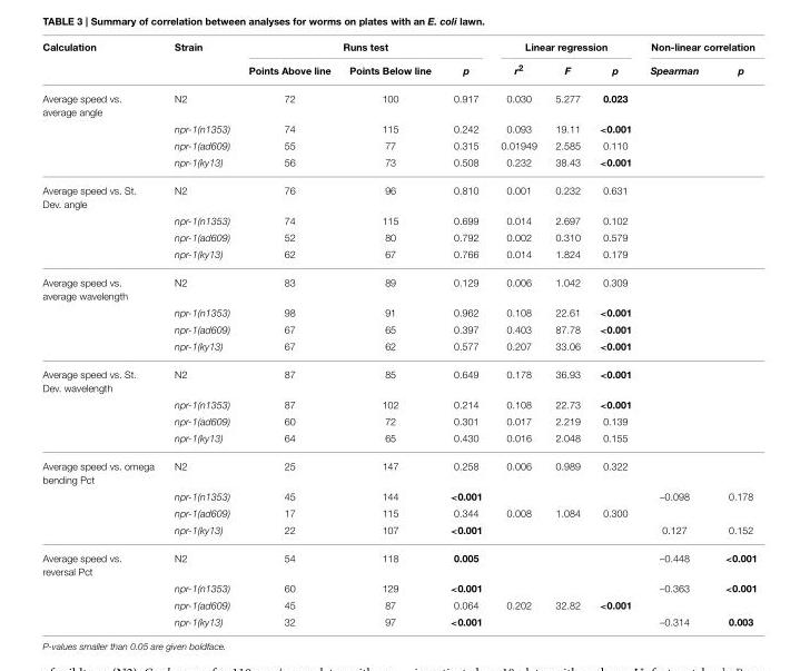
<table><thead><tr><td rowspan="2">Calculation</td><td rowspan="2">Strain</td><td colspan="3">Runs test</td><td colspan="3">Linear regression</td><td colspan="2">Non-linear correlation</td></tr><tr><td>Points Above line</td><td>Points Below line</td><td>p</td><td>r<sup>2</sup></td><td>F</td><td>p</td><td>Spearman</td><td>p</td></tr></thead><tbody><tr><td rowspan="4">Average speed vs. average angle</td><td>N2</td><td>72</td><td>100</td><td>0.917</td><td>0.030</td><td>5.277</td><td>0.023</td><td></td><td></td></tr><tr><td>npr-1(n1353)</td><td>74</td><td>115</td><td>0.242</td><td>0.093</td><td>19.11</td><td>&lt;0.001</td><td></td><td></td></tr><tr><td>npr-1(ad609)</td><td>55</td><td>77</td><td>0.315</td><td>0.01949</td><td>2.585</td><td>0.110</td><td></td><td></td></tr><tr><td>npr-1(ky13)</td><td>56</td><td>73</td><td>0.508</td><td>0.232</td><td>38.43</td><td>&lt;0.001</td><td></td><td></td></tr><tr><td rowspan="4">Average speed vs. St. Dev. angle</td><td>N2</td><td>76</td><td>96</td><td>0.810</td><td>0.001</td><td>0.232</td><td>0.631</td><td></td><td></td></tr><tr><td>npr-1(n1353)</td><td>74</td><td>115</td><td>0.699</td><td>0.014</td><td>2.697</td><td>0.102</td><td></td><td></td></tr><tr><td>npr-1(ad609)</td><td>52</td><td>80</td><td>0.792</td><td>0.002</td><td>0.310</td><td>0.579</td><td></td><td></td></tr><tr><td>npr-1(ky13)</td><td>62</td><td>67</td><td>0.766</td><td>0.014</td><td>1.824</td><td>0.179</td><td></td><td></td></tr><tr><td rowspan="4">Average speed vs. average wavelength</td><td>N2</td><td>83</td><td>89</td><td>0.129</td><td>0.006</td><td>1.042</td><td>0.309</td><td></td><td></td></tr><tr><td>npr-1(n1353)</td><td>98</td><td>91</td><td>0.962</td><td>0.108</td><td>22.61</td><td>&lt;0.001</td><td></td><td></td></tr><tr><td>npr-1(ad609)</td><td>67</td><td>65</td><td>0.397</td><td>0.403</td><td>87.78</td><td>&lt;0.001</td><td></td><td></td></tr><tr><td>npr-1(ky13)</td><td>67</td><td>62</td><td>0.577</td><td>0.207</td><td>33.06</td><td>&lt;0.001</td><td></td><td></td></tr><tr><td rowspan="4">Average speed vs. St. Dev. wavelength</td><td>N2</td><td>87</td><td>85</td><td>0.649</td><td>0.178</td><td>36.93</td><td>&lt;0.001</td><td></td><td></td></tr><tr><td>npr-1(n1353)</td><td>87</td><td>102</td><td>0.214</td><td>0.108</td><td>22.73</td><td>&lt;0.001</td><td></td><td></td></tr><tr><td>npr-1(ad609)</td><td>60</td><td>72</td><td>0.301</td><td>0.017</td><td>2.219</td><td>0.139</td><td></td><td></td></tr><tr><td>npr-1(ky13)</td><td>64</td><td>65</td><td>0.430</td><td>0.016</td><td>2.048</td><td>0.155</td><td></td><td></td></tr><tr><td rowspan="4">Average speed vs. omega bending Pct</td><td>N2</td><td>25</td><td>147</td><td>0.258</td><td>0.006</td><td>0.989</td><td>0.322</td><td></td><td></td></tr><tr><td>npr-1(n1353)</td><td>45</td><td>144</td><td>&lt;0.001</td><td></td><td></td><td></td><td>–0.098</td><td>0.178</td></tr><tr><td>npr-1(ad609)</td><td>17</td><td>115</td><td>0.344</td><td>0.008</td><td>1.084</td><td>0.300</td><td></td><td></td></tr><tr><td>npr-1(ky13)</td><td>22</td><td>107</td><td>&lt;0.001</td><td></td><td></td><td></td><td>0.127</td><td>0.152</td></tr><tr><td rowspan="4">Average speed vs. reversal Pct</td><td>N2</td><td>54</td><td>118</td><td>0.005</td><td></td><td></td><td></td><td>–0.448</td><td>&lt;0.001</td></tr><tr><td>npr-1(n1353)</td><td>60</td><td>129</td><td>&lt;0.001</td><td></td><td></td><td></td><td>–0.363</td><td>&lt;0.001</td></tr><tr><td>npr-1(ad609)</td><td>45</td><td>87</td><td>0.064</td><td>0.202</td><td>32.82</td><td>&lt;0.001</td><td></td><td></td></tr><tr><td>npr-1(ky13)</td><td>32</td><td>97</td><td>&lt;0.001</td><td></td><td></td><td></td><td>–0.314</td><td>0.003</td></tr></tbody></table>